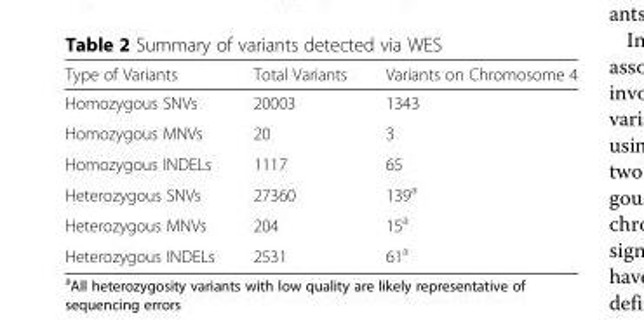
<table><thead><tr><td>Type of Variants</td><td>Total Variants</td><td>Variants on Chromosome 4</td></tr></thead><tbody><tr><td>Homozygous SNVs</td><td>20003</td><td>1343</td></tr><tr><td>Homozygous MNVs</td><td>20</td><td>3</td></tr><tr><td>Homozygous INDELs</td><td>1117</td><td>65</td></tr><tr><td>Heterozygous SNVs</td><td>27360</td><td>139<sup>a</sup></td></tr><tr><td>Heterozygous MNVs</td><td>204</td><td>15<sup>a</sup></td></tr><tr><td>Heterozygous INDELs</td><td>2531</td><td>61<sup>a</sup></td></tr></tbody></table>